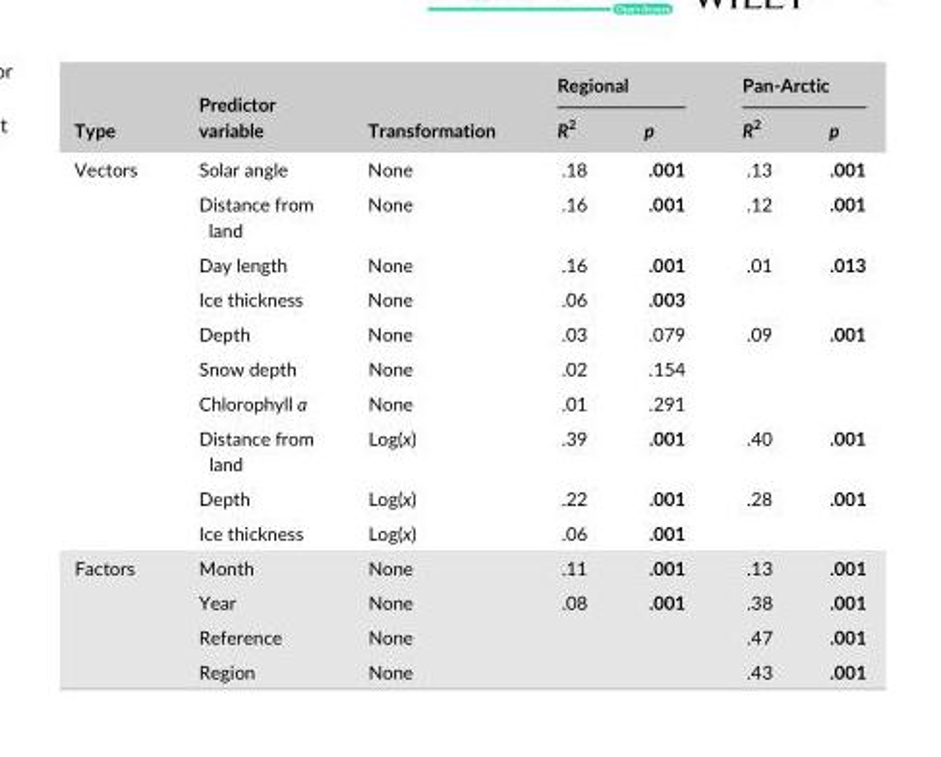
<table><thead><tr><td rowspan="2">Type</td><td rowspan="2">Predictor variable</td><td rowspan="2">Transformation</td><td colspan="2">Regional</td><td colspan="2">Pan- Arctic</td></tr><tr><td>R<sup>2</sup></td><td>p</td><td>R<sup>2</sup></td><td>p</td></tr></thead><tbody><tr><td rowspan="10">Vectors</td><td>Solar angle</td><td>None</td><td>.18</td><td>.001</td><td>.13</td><td>.001</td></tr><tr><td>Distance from land</td><td>None</td><td>.16</td><td>.001</td><td>.12</td><td>.001</td></tr><tr><td>Day length</td><td>None</td><td>.16</td><td>.001</td><td>.01</td><td>.013</td></tr><tr><td>Ice thickness</td><td>None</td><td>.06</td><td>.003</td><td></td><td></td></tr><tr><td>Depth</td><td>None</td><td>.03</td><td>.079</td><td>.09</td><td>.001</td></tr><tr><td>Snow depth</td><td>None</td><td>.02</td><td>.154</td><td></td><td></td></tr><tr><td>Chlorophyll a</td><td>None</td><td>.01</td><td>.291</td><td></td><td></td></tr><tr><td>Distance from land</td><td>Log(x)</td><td>.39</td><td>.001</td><td>.40</td><td>.001</td></tr><tr><td>Depth</td><td>Log(x)</td><td>.22</td><td>.001</td><td>.28</td><td>.001</td></tr><tr><td>Ice thickness</td><td>Log(x)</td><td>.06</td><td>.001</td><td></td><td></td></tr><tr><td rowspan="4">Factors</td><td>Month</td><td>None</td><td>.11</td><td>.001</td><td>.13</td><td>.001</td></tr><tr><td>Year</td><td>None</td><td>.08</td><td>.001</td><td>.38</td><td>.001</td></tr><tr><td>Reference</td><td>None</td><td></td><td></td><td>.47</td><td>.001</td></tr><tr><td>Region</td><td>None</td><td></td><td></td><td>.43</td><td>.001</td></tr></tbody></table>